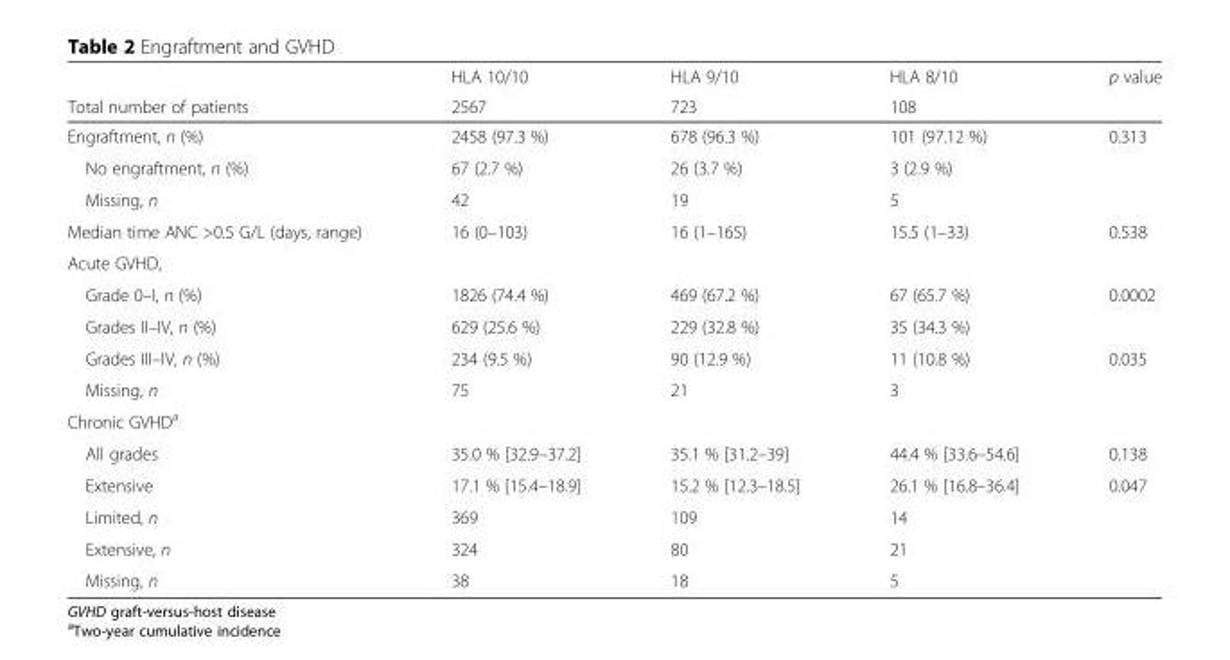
<table><thead><tr><td rowspan="2">Total number of patients</td><td rowspan="2">HLA 10/10 2567</td><td rowspan="2">HLA 9/10 723</td><td rowspan="2">HLA 8/10 108</td><td rowspan="2">p value</td></tr><tr></tr></thead><tbody><tr><td>Engraftment, n (%)</td><td>2458 (97.3 %)</td><td>678 (96.3 %)</td><td>101 (97.12 %)</td><td>0.313</td></tr><tr><td>No engraftment, n (%)</td><td>67 (2.7 %)</td><td>26 (3.7 %)</td><td>3 (2.9 %)</td><td></td></tr><tr><td>Missing, n</td><td>42</td><td>19</td><td>5</td><td></td></tr><tr><td>Median time ANC &gt;0.5 G/L (days, range)</td><td>16 (0–103)</td><td>16 (1–165)</td><td>15.5 (1–33)</td><td>0.538</td></tr><tr><td colspan="5">Acute GVHD,</td></tr><tr><td>Grade 0–I, n (%)</td><td>1826 (74.4 %)</td><td>469 (67.2 %)</td><td>67 (65.7 %)</td><td>0.0002</td></tr><tr><td>Grades II–IV, n (%)</td><td>629 (25.6 %)</td><td>229 (32.8 %)</td><td>35 (34.3 %)</td><td></td></tr><tr><td>Grades III–IV, n (%)</td><td>234 (9.5 %)</td><td>90 (12.9 %)</td><td>11 (10.8 %)</td><td>0.035</td></tr><tr><td>Missing, n</td><td>75</td><td>21</td><td>3</td><td></td></tr><tr><td colspan="5">Chronic GVHD<sup>a</sup></td></tr><tr><td>All grades</td><td>35.0 % [32.9–37.2]</td><td>35.1 % [31.2–39]</td><td>44.4 % [33.6–54.6]</td><td>0.138</td></tr><tr><td>Extensive</td><td>17.1 % [15.4–18.9]</td><td>15.2 % [12.3–18.5]</td><td>26.1 % [16.8–36.4]</td><td>0.047</td></tr><tr><td>Limited, n</td><td>369</td><td>109</td><td>14</td><td></td></tr><tr><td>Extensive, n</td><td>324</td><td>80</td><td>21</td><td></td></tr><tr><td>Missing, n</td><td>38</td><td>18</td><td>5</td><td></td></tr></tbody></table>